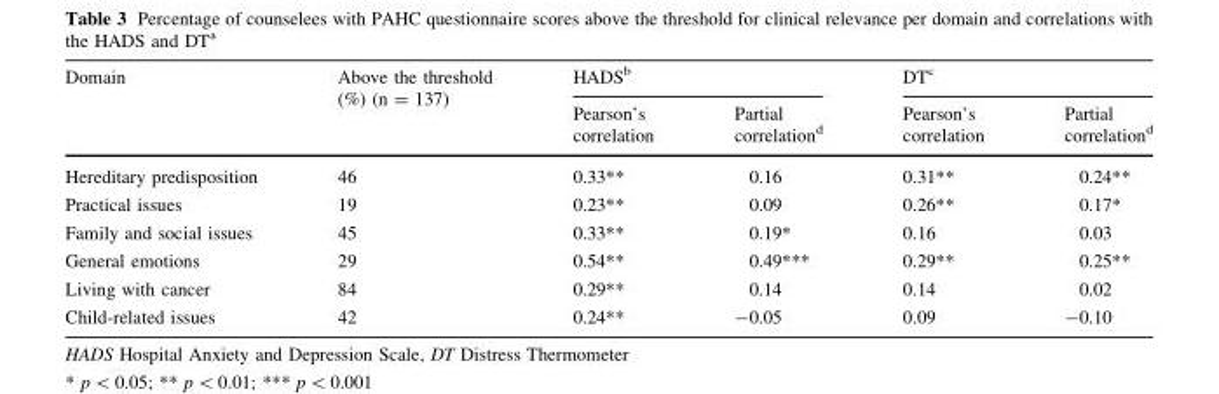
<table><thead><tr><td rowspan="2">Domain</td><td rowspan="2">Above the threshold (%) (n = 137)</td><td colspan="2">HADS<sup>b</sup></td><td colspan="2">DT<sup>c</sup></td></tr><tr><td>Pearson’s correlation</td><td>Partial correlation<sup>d</sup></td><td>Pearson’s correlation</td><td>Partial correlation<sup>d</sup></td></tr></thead><tbody><tr><td>Hereditary predisposition</td><td>46</td><td>0.33**</td><td>0.16</td><td>0.31**</td><td>0.24**</td></tr><tr><td>Practical issues</td><td>19</td><td>0.23**</td><td>0.09</td><td>0.26**</td><td>0.17*</td></tr><tr><td>Family and social issues</td><td>45</td><td>0.33**</td><td>0.19*</td><td>0.16</td><td>0.03</td></tr><tr><td>General emotions</td><td>29</td><td>0.54**</td><td>0.49***</td><td>0.29**</td><td>0.25**</td></tr><tr><td>Living with cancer</td><td>84</td><td>0.29**</td><td>0.14</td><td>0.14</td><td>0.02</td></tr><tr><td>Child-related issues</td><td>42</td><td>0.24**</td><td>-0.05</td><td>0.09</td><td>-0.10</td></tr></tbody></table>